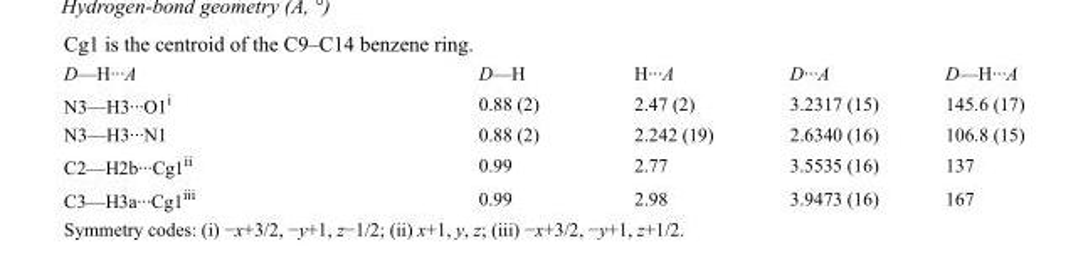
<table><tbody><tr><td>D—H···A</td><td>D—H</td><td>H···A</td><td>D···A</td><td>D—H···A</td></tr><tr><td>N3—H3···O1<sup>i</sup></td><td>0.88 (2)</td><td>2.47 (2)</td><td>3.2317 (15)</td><td>145.6 (17)</td></tr><tr><td>N3—H3···N1</td><td>0.88 (2)</td><td>2.242 (19)</td><td>2.6340 (16)</td><td>106.8 (15)</td></tr><tr><td>C2—H2b···Cg1<sup>ii</sup></td><td>0.99</td><td>2.77</td><td>3.5535 (16)</td><td>137</td></tr><tr><td>C3—H3a···Cg1<sup>iii</sup></td><td>0.99</td><td>2.98</td><td>3.9473 (16)</td><td>167</td></tr></tbody></table>